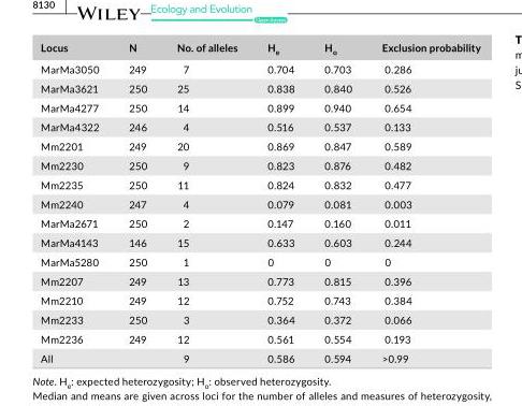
<table><thead><tr><td>Locus</td><td>N</td><td>No. of alleles</td><td>H<sub>e</sub></td><td>H<sub>o</sub></td><td>Exclusion probability</td></tr></thead><tbody><tr><td>MarMa3050</td><td>249</td><td>7</td><td>0.704</td><td>0.703</td><td>0.286</td></tr><tr><td>MarMa3621</td><td>250</td><td>25</td><td>0.838</td><td>0.840</td><td>0.526</td></tr><tr><td>MarMa4277</td><td>250</td><td>14</td><td>0.899</td><td>0.940</td><td>0.654</td></tr><tr><td>MarMa4322</td><td>246</td><td>4</td><td>0.516</td><td>0.537</td><td>0.133</td></tr><tr><td>Mm2201</td><td>249</td><td>20</td><td>0.869</td><td>0.847</td><td>0.589</td></tr><tr><td>Mm2230</td><td>250</td><td>9</td><td>0.823</td><td>0.876</td><td>0.482</td></tr><tr><td>Mm2235</td><td>250</td><td>11</td><td>0.824</td><td>0.832</td><td>0.477</td></tr><tr><td>Mm2240</td><td>247</td><td>4</td><td>0.079</td><td>0.081</td><td>0.003</td></tr><tr><td>MarMa2671</td><td>250</td><td>2</td><td>0.147</td><td>0.160</td><td>0.011</td></tr><tr><td>MarMa4143</td><td>146</td><td>15</td><td>0.633</td><td>0.603</td><td>0.244</td></tr><tr><td>MarMa5280</td><td>250</td><td>1</td><td>0</td><td>0</td><td>0</td></tr><tr><td>Mm2207</td><td>249</td><td>13</td><td>0.773</td><td>0.815</td><td>0.396</td></tr><tr><td>Mm2210</td><td>249</td><td>12</td><td>0.752</td><td>0.743</td><td>0.384</td></tr><tr><td>Mm2233</td><td>250</td><td>3</td><td>0.364</td><td>0.372</td><td>0.066</td></tr><tr><td>Mm2236</td><td>249</td><td>12</td><td>0.561</td><td>0.554</td><td>0.193</td></tr><tr><td>All</td><td></td><td>9</td><td>0.586</td><td>0.594</td><td>&gt;0.99</td></tr></tbody></table>